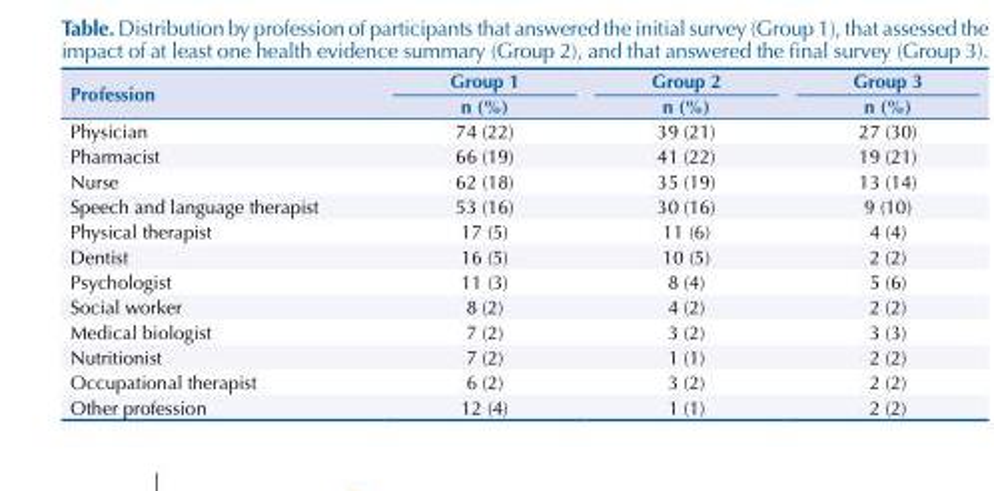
<table><thead><tr><td rowspan="2">Profession</td><td rowspan="2">Group 1 n (%)</td><td rowspan="2">Group 2 n (%)</td><td rowspan="2">Group 3 n (%)</td></tr><tr></tr></thead><tbody><tr><td>Physician</td><td>74 (22)</td><td>39 (21)</td><td>27 (30)</td></tr><tr><td>Pharmacist</td><td>66 (19)</td><td>41 (22)</td><td>19 (21)</td></tr><tr><td>Nurse</td><td>62 (18)</td><td>35 (19)</td><td>13 (14)</td></tr><tr><td>Speech and language therapist</td><td>53 (16)</td><td>30 (16)</td><td>9 (10)</td></tr><tr><td>Physical therapist</td><td>17 (5)</td><td>11 (6)</td><td>4 (4)</td></tr><tr><td>Dentist</td><td>16 (5)</td><td>10 (5)</td><td>2 (2)</td></tr><tr><td>Psychologist</td><td>11 (3)</td><td>8 (4)</td><td>5 (6)</td></tr><tr><td>Social worker</td><td>8 (2)</td><td>4 (2)</td><td>2 (2)</td></tr><tr><td>Medical biologist</td><td>7 (2)</td><td>3 (2)</td><td>3 (3)</td></tr><tr><td>Nutritionist</td><td>7 (2)</td><td>1 (1)</td><td>2 (2)</td></tr><tr><td>Occupational therapist</td><td>6 (2)</td><td>3 (2)</td><td>2 (2)</td></tr><tr><td>Other profession</td><td>12 (4)</td><td>1 (1)</td><td>2 (2)</td></tr></tbody></table>